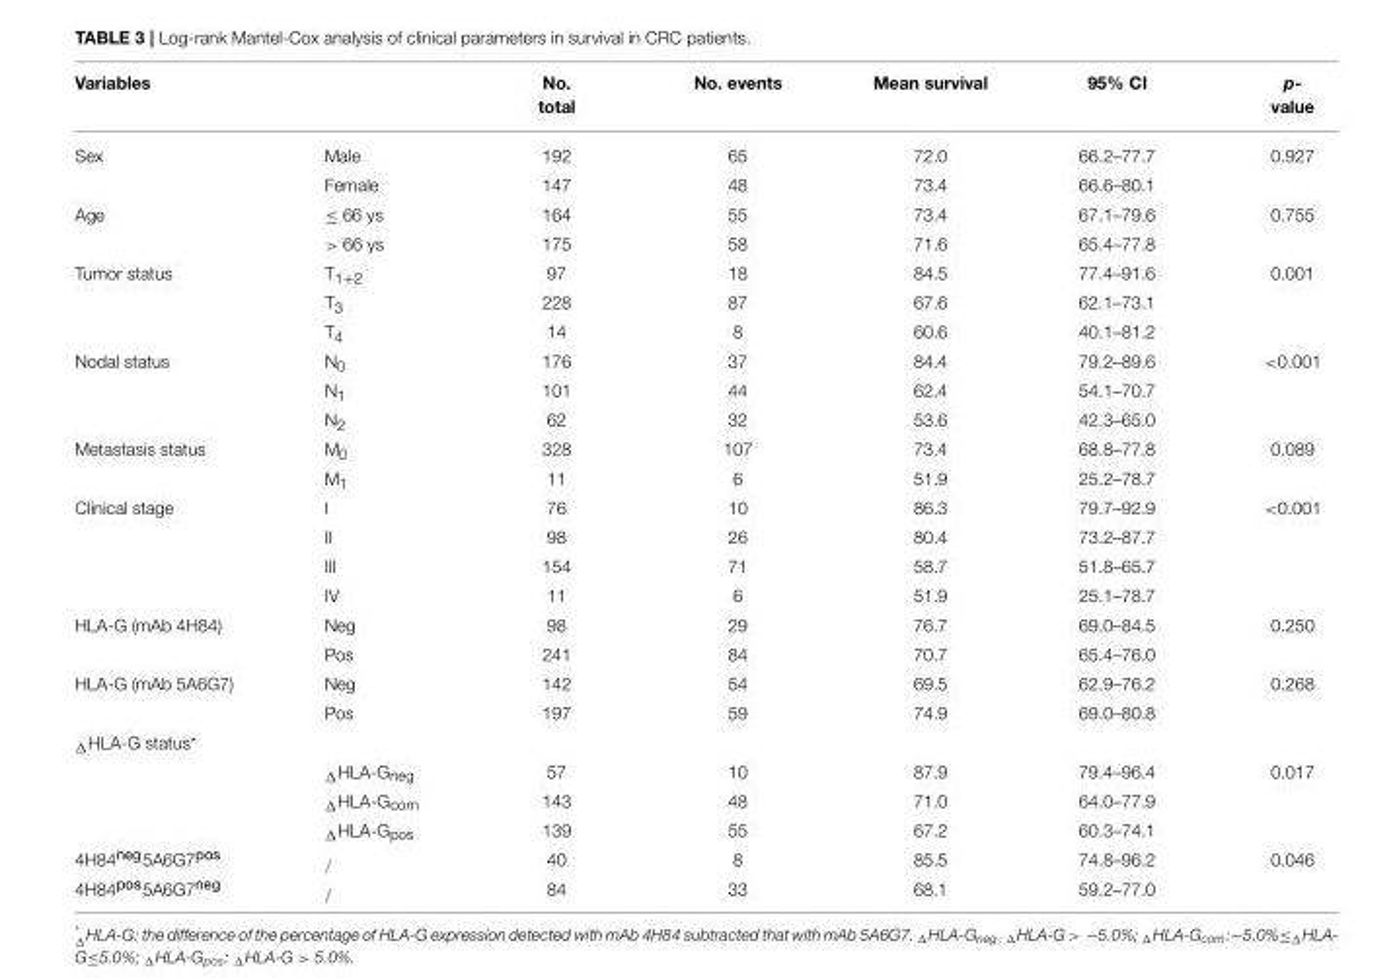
<table><thead><tr><td colspan="2">Variables</td><td rowspan="2">No. total 192</td><td rowspan="2">No. events 65</td><td rowspan="2">Mean survival 72.0</td><td rowspan="2">95% CI 66.2–77.7</td><td rowspan="2">p- value 0.927</td></tr><tr><td>Sex</td><td>Male</td></tr></thead><tbody><tr><td></td><td>Female</td><td>147</td><td>48</td><td>73.4</td><td>66.6–80.1</td><td></td></tr><tr><td rowspan="2">Age</td><td>≤ 66 ys</td><td>164</td><td>55</td><td>73.4</td><td>67.1–79.6</td><td>0.755</td></tr><tr><td>&gt; 66 ys</td><td>175</td><td>58</td><td>71.6</td><td>65.4–77.8</td><td></td></tr><tr><td rowspan="3">Tumor status</td><td>T<sub>1+2</sub></td><td>97</td><td>18</td><td>84.5</td><td>77.4–91.6</td><td>0.001</td></tr><tr><td>T<sub>3</sub></td><td>228</td><td>87</td><td>67.6</td><td>62.1–73.1</td><td></td></tr><tr><td>T<sub>4</sub></td><td>14</td><td>8</td><td>60.6</td><td>40.1–81.2</td><td></td></tr><tr><td rowspan="3">Nodal status</td><td>N<sub>0</sub></td><td>176</td><td>37</td><td>84.4</td><td>79.2–89.6</td><td>&lt;0.001</td></tr><tr><td>N<sub>1</sub></td><td>101</td><td>44</td><td>62.4</td><td>54.1–70.7</td><td></td></tr><tr><td>N<sub>2</sub></td><td>62</td><td>32</td><td>53.6</td><td>42.3–65.0</td><td></td></tr><tr><td rowspan="2">Metastasis status</td><td>M<sub>0</sub></td><td>328</td><td>107</td><td>73.4</td><td>68.8–77.8</td><td>0.089</td></tr><tr><td>M<sub>1</sub></td><td>11</td><td>6</td><td>51.9</td><td>25.2–78.7</td><td></td></tr><tr><td rowspan="4">Clinical stage</td><td>I</td><td>76</td><td>10</td><td>86.3</td><td>79.7–92.9</td><td>&lt;0.001</td></tr><tr><td>II</td><td>98</td><td>26</td><td>80.4</td><td>73.2–87.7</td><td></td></tr><tr><td>III</td><td>154</td><td>71</td><td>58.7</td><td>51.8–65.7</td><td></td></tr><tr><td>IV</td><td>11</td><td>6</td><td>51.9</td><td>25.1–78.7</td><td></td></tr><tr><td rowspan="2">HLA-G (mAb 4H84)</td><td>Neg</td><td>98</td><td>29</td><td>76.7</td><td>69.0–84.5</td><td>0.250</td></tr><tr><td>Pos</td><td>241</td><td>84</td><td>70.7</td><td>65.4–76.0</td><td></td></tr><tr><td rowspan="2">HLA-G (mAb 5A6G7)</td><td>Neg</td><td>142</td><td>54</td><td>69.5</td><td>62.9–76.2</td><td>0.268</td></tr><tr><td>Pos</td><td>197</td><td>59</td><td>74.9</td><td>69.0–80.8</td><td></td></tr><tr><td colspan="7"><sub>Δ</sub>HLA-G status*</td></tr><tr><td></td><td><sub>Δ</sub>HLA-G<sub>neg</sub></td><td>57</td><td>10</td><td>87.9</td><td>79.4–96.4</td><td>0.017</td></tr><tr><td></td><td><sub>Δ</sub>HLA-G<sub>com</sub></td><td>143</td><td>48</td><td>71.0</td><td>64.0–77.9</td><td></td></tr><tr><td></td><td><sub>Δ</sub>HLA-G<sub>pos</sub></td><td>139</td><td>55</td><td>67.2</td><td>60.3–74.1</td><td></td></tr><tr><td>4H84<sup>neg</sup>5A6G7<sup>pos</sup></td><td><sub>/</sub></td><td>40</td><td>8</td><td>85.5</td><td>74.8–96.2</td><td>0.046</td></tr><tr><td>4H84<sup>pos</sup>5A6G7<sup>neg</sup></td><td><sub>/</sub></td><td>84</td><td>33</td><td>68.1</td><td>59.2–77.0</td><td></td></tr></tbody></table>